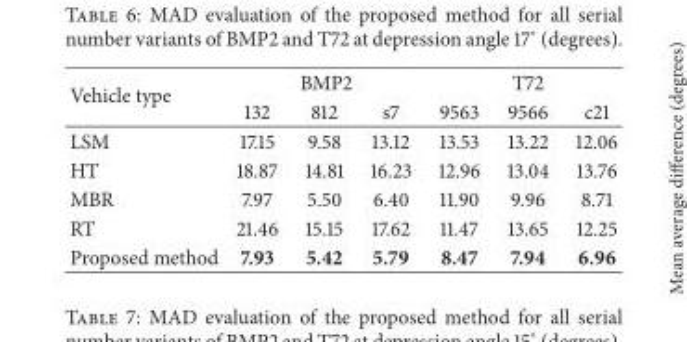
<table><thead><tr><td rowspan="2">Vehicle type</td><td colspan="3">BMP2</td><td colspan="3">T72</td></tr><tr><td>132</td><td>812</td><td>s7</td><td>9563</td><td>9566</td><td>c21</td></tr></thead><tbody><tr><td>LSM</td><td>17.15</td><td>9.58</td><td>13.12</td><td>13.53</td><td>13.22</td><td>12.06</td></tr><tr><td>HT</td><td>18.87</td><td>14.81</td><td>16.23</td><td>12.96</td><td>13.04</td><td>13.76</td></tr><tr><td>MBR</td><td>7.97</td><td>5.50</td><td>6.40</td><td>11.90</td><td>9.96</td><td>8.71</td></tr><tr><td>RT</td><td>21.46</td><td>15.15</td><td>17.62</td><td>11.47</td><td>13.65</td><td>12.25</td></tr><tr><td>Proposed method</td><td>7.93</td><td>5.42</td><td>5.79</td><td>8.47</td><td>7.94</td><td>6.96</td></tr></tbody></table>